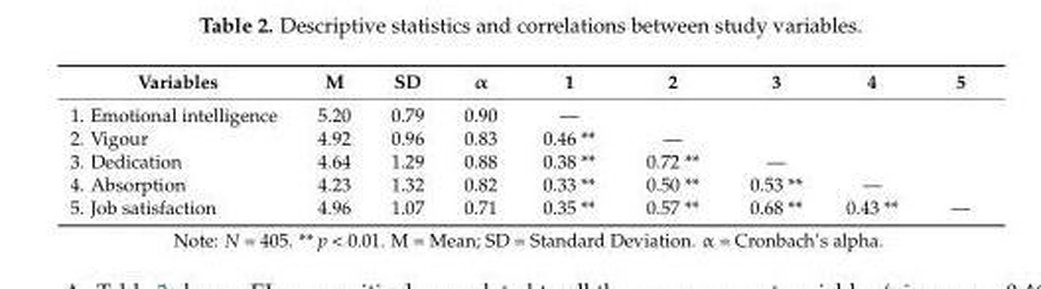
<table><thead><tr><td>Variables</td><td>M</td><td>SD</td><td>α</td><td>1</td><td>2</td><td>3</td><td>4</td><td>5</td></tr></thead><tbody><tr><td>1. Emotional intelligence</td><td>5.20</td><td>0.79</td><td>0.90</td><td>—</td><td></td><td></td><td></td><td></td></tr><tr><td>2. Vigour</td><td>4.92</td><td>0.96</td><td>0.83</td><td>0.46 **</td><td>—</td><td></td><td></td><td></td></tr><tr><td>3. Dedication</td><td>4.64</td><td>1.29</td><td>0.88</td><td>0.38 **</td><td>0.72 **</td><td>—</td><td></td><td></td></tr><tr><td>4. Absorption</td><td>4.23</td><td>1.32</td><td>0.82</td><td>0.33 **</td><td>0.50 **</td><td>0.53 **</td><td>—</td><td></td></tr><tr><td>5. Job satisfaction</td><td>4.96</td><td>1.07</td><td>0.71</td><td>0.35 **</td><td>0.57 **</td><td>0.68 **</td><td>0.43 **</td><td>—</td></tr></tbody></table>